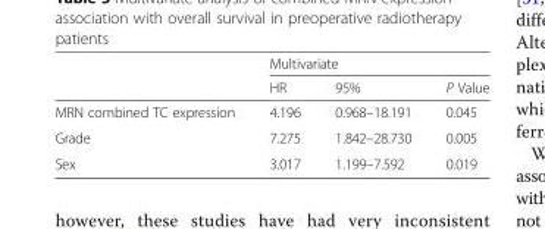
<table><thead><tr><td rowspan="2"></td><td colspan="3">Multivariate</td></tr><tr><td>HR</td><td>95%</td><td>P Value</td></tr></thead><tbody><tr><td>MRN combined TC expression</td><td>4.196</td><td>0.968–18.191</td><td>0.045</td></tr><tr><td>Grade</td><td>7.275</td><td>1.842–28.730</td><td>0.005</td></tr><tr><td>Sex</td><td>3.017</td><td>1.199–7.592</td><td>0.019</td></tr></tbody></table>